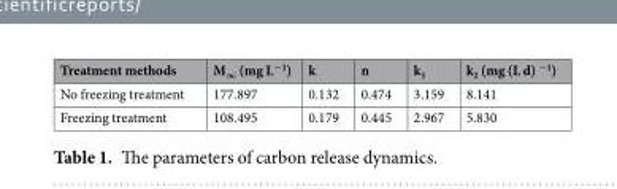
<table><thead><tr><td>Treatment methods</td><td>M<sub>∞</sub> (mg L<sup>−1</sup>)</td><td>k</td><td>n</td><td>k<sub>1</sub></td><td>k<sub>2</sub> (mg (L d) <sup>−1</sup>)</td></tr></thead><tbody><tr><td>No freezing treatment</td><td>177.897</td><td>0.132</td><td>0.474</td><td>3.159</td><td>8.141</td></tr><tr><td>Freezing treatment</td><td>108.495</td><td>0.179</td><td>0.445</td><td>2.967</td><td>5.830</td></tr></tbody></table>